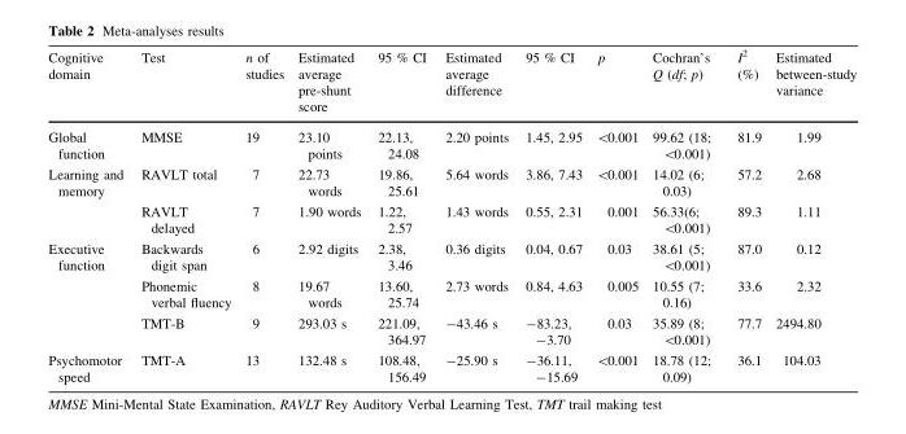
<table><thead><tr><td>Cognitive domain</td><td>Test</td><td>n of studies</td><td>Estimated average pre-shunt score</td><td>95 % CI</td><td>Estimated average difference</td><td>95 % CI</td><td>p</td><td>Cochran’s Q (df; p)</td><td>I<sup>2</sup> (%)</td><td>Estimated between-study variance</td></tr></thead><tbody><tr><td>Global function</td><td>MMSE</td><td>19</td><td>23.10 points</td><td>22.13, 24.08</td><td>2.20 points</td><td>1.45, 2.95</td><td>&lt;0.001</td><td>99.62 (18; &lt;0.001)</td><td>81.9</td><td>1.99</td></tr><tr><td rowspan="2">Learning and memory</td><td>RAVLT total</td><td>7</td><td>22.73 words</td><td>19.86, 25.61</td><td>5.64 words</td><td>3.86, 7.43</td><td>&lt;0.001</td><td>14.02 (6; 0.03)</td><td>57.2</td><td>2.68</td></tr><tr><td>RAVLT delayed</td><td>7</td><td>1.90 words</td><td>1.22, 2.57</td><td>1.43 words</td><td>0.55, 2.31</td><td>0.001</td><td>56.33(6; &lt;0.001)</td><td>89.3</td><td>1.11</td></tr><tr><td rowspan="3">Executive function</td><td>Backwards digit span</td><td>6</td><td>2.92 digits</td><td>2.38, 3.46</td><td>0.36 digits</td><td>0.04, 0.67</td><td>0.03</td><td>38.61 (5; &lt;0.001)</td><td>87.0</td><td>0.12</td></tr><tr><td>Phonemic verbal fluency</td><td>8</td><td>19.67 words</td><td>13.60, 25.74</td><td>2.73 words</td><td>0.84, 4.63</td><td>0.005</td><td>10.55 (7; 0.16)</td><td>33.6</td><td>2.32</td></tr><tr><td>TMT-B</td><td>9</td><td>293.03 s</td><td>221.09, 364.97</td><td>-43.46 s</td><td>-83.23, -3.70</td><td>0.03</td><td>35.89 (8; &lt;0.001)</td><td>77.7</td><td>2494.80</td></tr><tr><td>Psychomotor speed</td><td>TMT-A</td><td>13</td><td>132.48 s</td><td>108.48, 156.49</td><td>-25.90 s</td><td>-36.11, -15.69</td><td>&lt;0.001</td><td>18.78 (12; 0.09)</td><td>36.1</td><td>104.03</td></tr></tbody></table>